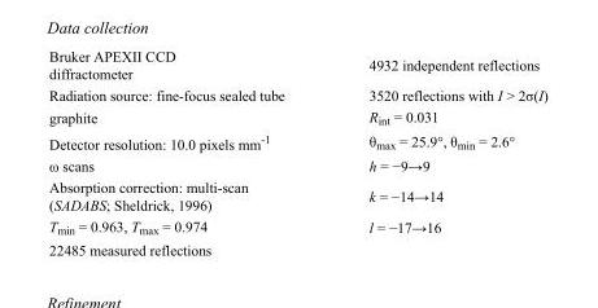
<table><tbody><tr><td>Bruker APEXII CCD diffractometer</td><td>4932 independent reflections</td></tr><tr><td>Radiation source: fine-focus sealed tube</td><td>3520 reflections with I &gt; 2σ(I)</td></tr><tr><td>graphite</td><td>R<sub>int</sub> = 0.031</td></tr><tr><td>Detector resolution: 10.0 pixels mm<sup>-1</sup></td><td>θ<sub>max</sub> = 25.9°, θ<sub>min</sub> = 2.6°</td></tr><tr><td>ω scans</td><td>h = −9→9</td></tr><tr><td>Absorption correction: multi-scan (SADABS; Sheldrick, 1996)</td><td>k = −14→14</td></tr><tr><td>T<sub>min</sub> = 0.963, T<sub>max</sub> = 0.974</td><td>l = −17→16</td></tr><tr><td>22485 measured reflections</td><td></td></tr></tbody></table>